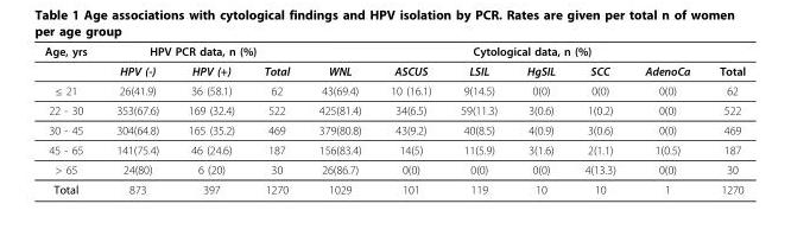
<table><thead><tr><td rowspan="2">Age, yrs</td><td colspan="3">HPV PCR data, n (%)</td><td colspan="7">Cytological data, n (%)</td></tr><tr><td>HPV (-)</td><td>HPV (+)</td><td>Total</td><td>WNL</td><td>ASCUS</td><td>LSIL</td><td>HgSIL</td><td>SCC</td><td>AdenoCa</td><td>Total</td></tr></thead><tbody><tr><td>≤ 21</td><td>26(41.9)</td><td>36 (58.1)</td><td>62</td><td>43(69.4)</td><td>10 (16.1)</td><td>9(14.5)</td><td>0(0)</td><td>0(0)</td><td>0(0)</td><td>62</td></tr><tr><td>22 - 30</td><td>353(67.6)</td><td>169 (32.4)</td><td>522</td><td>425(81.4)</td><td>34(6.5)</td><td>59(11.3)</td><td>3(0.6)</td><td>1(0.2)</td><td>0(0)</td><td>522</td></tr><tr><td>30 - 45</td><td>304(64.8)</td><td>165 (35.2)</td><td>469</td><td>379(80.8)</td><td>43(9.2)</td><td>40(8.5)</td><td>4(0.9)</td><td>3(0.6)</td><td>0(0)</td><td>469</td></tr><tr><td>45 - 65</td><td>141(75.4)</td><td>46 (24.6)</td><td>187</td><td>156(83.4)</td><td>14(5)</td><td>11(5.9)</td><td>3(1.6)</td><td>2(1.1)</td><td>1(0.5)</td><td>187</td></tr><tr><td>&gt; 65</td><td>24(80)</td><td>6 (20)</td><td>30</td><td>26(86.7)</td><td>0(0)</td><td>0(0)</td><td>0(0)</td><td>4(13.3)</td><td>0(0)</td><td>30</td></tr><tr><td>Total</td><td>873</td><td>397</td><td>1270</td><td>1029</td><td>101</td><td>119</td><td>10</td><td>10</td><td>1</td><td>1270</td></tr></tbody></table>